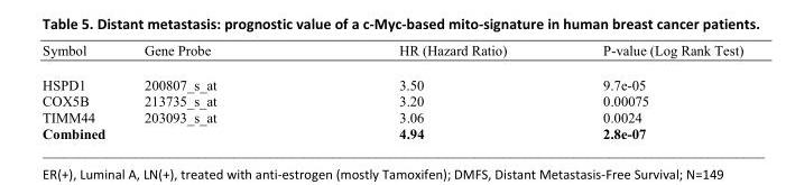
<table><thead><tr><td>Symbol</td><td>Gene Probe</td><td>HR (Hazard Ratio)</td><td>P-value (Log Rank Test)</td></tr></thead><tbody><tr><td>HSPD1</td><td>200807_s_at</td><td>3.50</td><td>9.7e-05</td></tr><tr><td>COX5B</td><td>213735_s_at</td><td>3.20</td><td>0.00075</td></tr><tr><td>TIMM44</td><td>203093_s_at</td><td>3.06</td><td>0.0024</td></tr><tr><td>Combined</td><td></td><td>4.94</td><td>2.8e-07</td></tr></tbody></table>